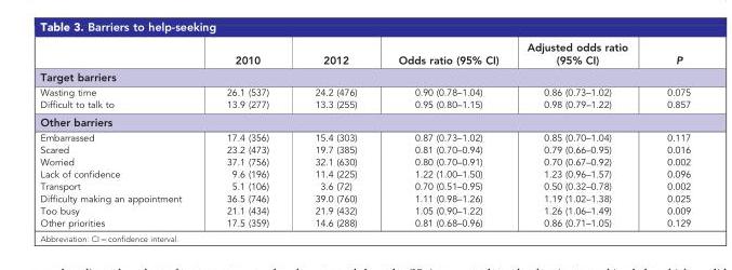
<table><thead><tr><td></td><td>2010</td><td>2012</td><td>Odds ratio (95% CI)</td><td>Adjusted odds ratio (95% CI)</td><td>P</td></tr></thead><tbody><tr><td colspan="6">Target barriers</td></tr><tr><td>Wasting time</td><td>26.1 (537)</td><td>24.2 (476)</td><td>0.90 (0.78–1.04)</td><td>0.86 (0.73–1.02)</td><td>0.075</td></tr><tr><td>Difficult to talk to</td><td>13.9 (277)</td><td>13.3 (255)</td><td>0.95 (0.80–1.15)</td><td>0.98 (0.79–1.22)</td><td>0.857</td></tr><tr><td colspan="6">Other barriers</td></tr><tr><td>Embarrassed</td><td>17.4 (356)</td><td>15.4 (303)</td><td>0.87 (0.73–1.02)</td><td>0.85 (0.70–1.04)</td><td>0.117</td></tr><tr><td>Scared</td><td>23.2 (473)</td><td>19.7 (385)</td><td>0.81 (0.70–0.94)</td><td>0.79 (0.66–0.95)</td><td>0.016</td></tr><tr><td>Worried</td><td>37.1 (756)</td><td>32.1 (630)</td><td>0.80 (0.70–0.91)</td><td>0.70 (0.67–0.92)</td><td>0.002</td></tr><tr><td>Lack of confidence</td><td>9.6 (196)</td><td>11.4 (225)</td><td>1.22 (1.00–1.50)</td><td>1.23 (0.96–1.57)</td><td>0.096</td></tr><tr><td>Transport</td><td>5.1 (106)</td><td>3.6 (72)</td><td>0.70 (0.51–0.95)</td><td>0.50 (0.32–0.78)</td><td>0.002</td></tr><tr><td>Difficulty making an appointment</td><td>36.5 (746)</td><td>39.0 (760)</td><td>1.11 (0.98–1.26)</td><td>1.19 (1.02–1.38)</td><td>0.025</td></tr><tr><td>Too busy</td><td>21.1 (434)</td><td>21.9 (432)</td><td>1.05 (0.90–1.22)</td><td>1.26 (1.06–1.49)</td><td>0.009</td></tr><tr><td>Other priorities</td><td>17.5 (359)</td><td>14.6 (288)</td><td>0.81 (0.68–0.96)</td><td>0.86 (0.71–1.05)</td><td>0.129</td></tr></tbody></table>